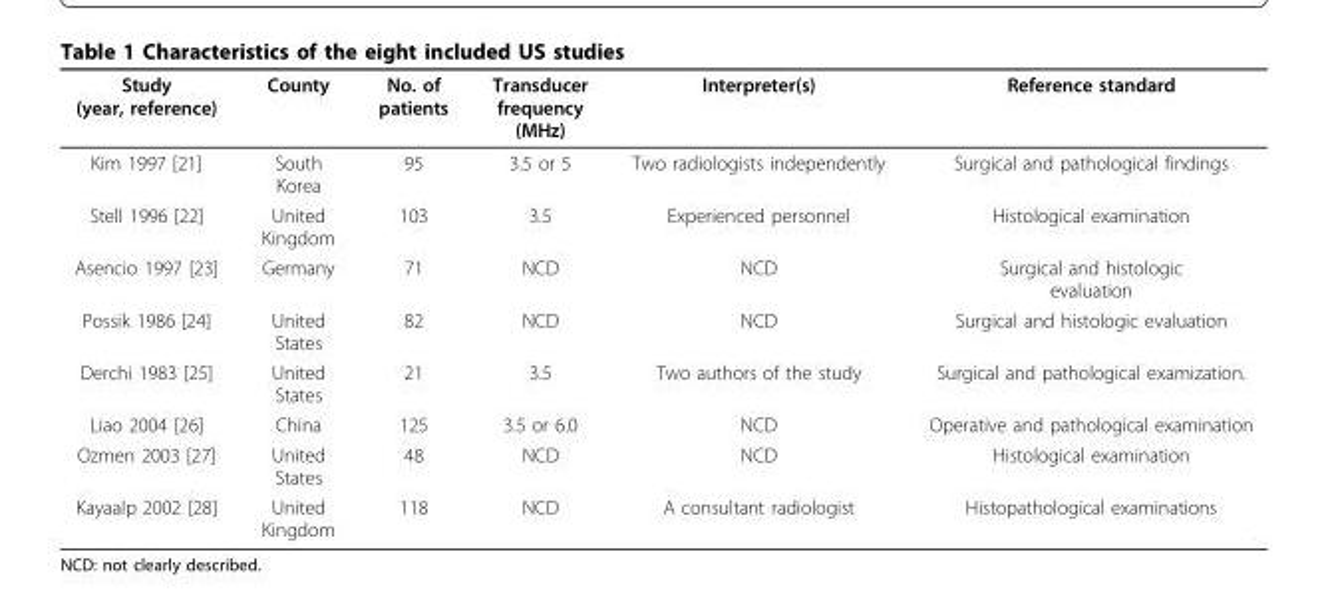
<table><thead><tr><td>Study (year, reference)</td><td>County</td><td>No. of patients</td><td>Transducer frequency (MHz)</td><td>Interpreter(s)</td><td>Reference standard</td></tr></thead><tbody><tr><td>Kim 1997 [21]</td><td>South Korea</td><td>95</td><td>3.5 or 5</td><td>Two radiologists independently</td><td>Surgical and pathological findings</td></tr><tr><td>Stell 1996 [22]</td><td>United Kingdom</td><td>103</td><td>3.5</td><td>Experienced personnel</td><td>Histological examination</td></tr><tr><td>Asencio 1997 [23]</td><td>Germany</td><td>71</td><td>NCD</td><td>NCD</td><td>Surgical and histologic evaluation</td></tr><tr><td>Possik 1986 [24]</td><td>United States</td><td>82</td><td>NCD</td><td>NCD</td><td>Surgical and histologic evaluation</td></tr><tr><td>Derchi 1983 [25]</td><td>United States</td><td>21</td><td>3.5</td><td>Two authors of the study</td><td>Surgical and pathological examization.</td></tr><tr><td>Liao 2004 [26]</td><td>China</td><td>125</td><td>3.5 or 6.0</td><td>NCD</td><td>Operative and pathological examination</td></tr><tr><td>Ozmen 2003 [27]</td><td>United States</td><td>48</td><td>NCD</td><td>NCD</td><td>Histological examination</td></tr><tr><td>Kayaalp 2002 [28]</td><td>United Kingdom</td><td>118</td><td>NCD</td><td>A consultant radiologist</td><td>Histopathological examinations</td></tr></tbody></table>